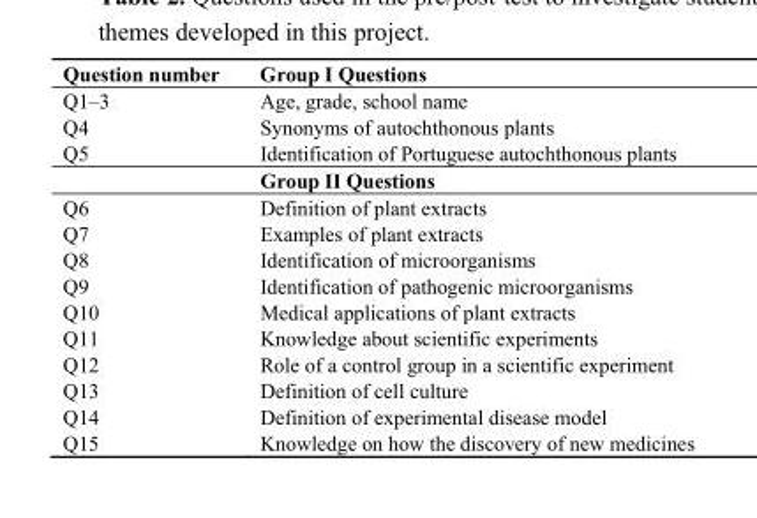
<table><thead><tr><td>Question number</td><td>Group I Questions</td></tr></thead><tbody><tr><td>Q1–3</td><td>Age, grade, school name</td></tr><tr><td>Q4</td><td>Synonyms of autochthonous plants</td></tr><tr><td rowspan="2">Q5</td><td>Identification of Portuguese autochthonous plants</td></tr><tr><td>Group II Questions</td></tr><tr><td>Q6</td><td>Definition of plant extracts</td></tr><tr><td>Q7</td><td>Examples of plant extracts</td></tr><tr><td>Q8</td><td>Identification of microorganisms</td></tr><tr><td>Q9</td><td>Identification of pathogenic microorganisms</td></tr><tr><td>Q10</td><td>Medical applications of plant extracts</td></tr><tr><td>Q11</td><td>Knowledge about scientific experiments</td></tr><tr><td>Q12</td><td>Role of a control group in a scientific experiment</td></tr><tr><td>Q13</td><td>Definition of cell culture</td></tr><tr><td>Q14</td><td>Definition of experimental disease model</td></tr><tr><td>Q15</td><td>Knowledge on how the discovery of new medicines</td></tr></tbody></table>